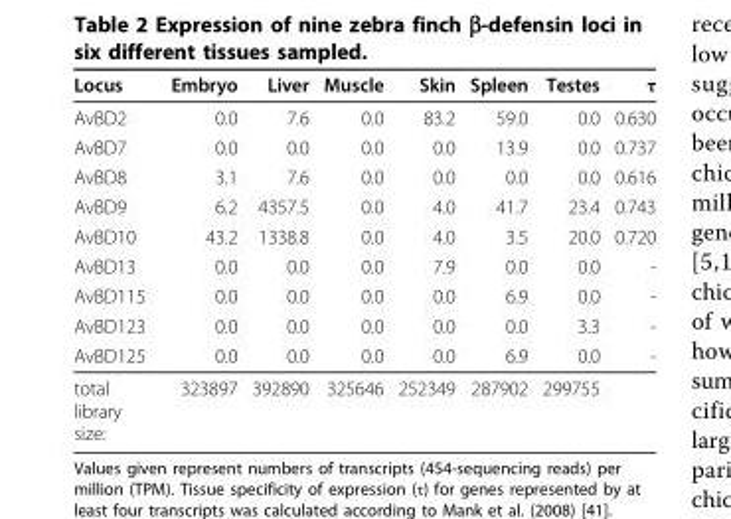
<table><thead><tr><td>Locus</td><td>Embryo</td><td>Liver</td><td>Muscle</td><td>Skin</td><td>Spleen</td><td>Testes</td><td>τ</td></tr></thead><tbody><tr><td>AvBD2</td><td>0.0</td><td>7.6</td><td>0.0</td><td>83.2</td><td>59.0</td><td>0.0</td><td>0.630</td></tr><tr><td>AvBD7</td><td>0.0</td><td>0.0</td><td>0.0</td><td>0.0</td><td>13.9</td><td>0.0</td><td>0.737</td></tr><tr><td>AvBD8</td><td>3.1</td><td>7.6</td><td>0.0</td><td>0.0</td><td>0.0</td><td>0.0</td><td>0.616</td></tr><tr><td>AvBD9</td><td>6.2</td><td>4357.5</td><td>0.0</td><td>4.0</td><td>41.7</td><td>23.4</td><td>0.743</td></tr><tr><td>AvBD10</td><td>43.2</td><td>1338.8</td><td>0.0</td><td>4.0</td><td>3.5</td><td>20.0</td><td>0.720</td></tr><tr><td>AvBD13</td><td>0.0</td><td>0.0</td><td>0.0</td><td>7.9</td><td>0.0</td><td>0.0</td><td>-</td></tr><tr><td>AvBD115</td><td>0.0</td><td>0.0</td><td>0.0</td><td>0.0</td><td>6.9</td><td>0.0</td><td>-</td></tr><tr><td>AvBD123</td><td>0.0</td><td>0.0</td><td>0.0</td><td>0.0</td><td>0.0</td><td>3.3</td><td>-</td></tr><tr><td>AvBD125</td><td>0.0</td><td>0.0</td><td>0.0</td><td>0.0</td><td>6.9</td><td>0.0</td><td>-</td></tr><tr><td>total library size:</td><td>323897</td><td>392890</td><td>325646</td><td>252349</td><td>287902</td><td>299755</td><td></td></tr></tbody></table>